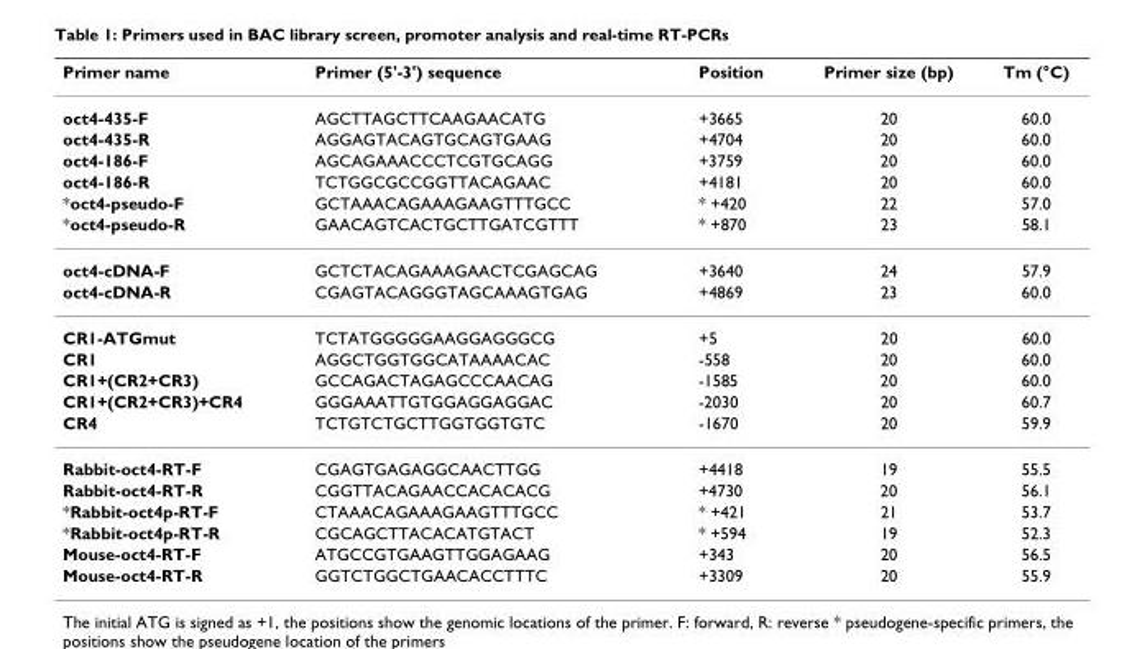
<table><thead><tr><td>Primer name</td><td>Primer (5&#x27;-3&#x27;) sequence</td><td>Position</td><td>Primer size (bp)</td><td>Tm (°C)</td></tr></thead><tbody><tr><td>oct4-435-F</td><td>AGCTTAGCTTCAAGAACATG</td><td>+3665</td><td>20</td><td>60.0</td></tr><tr><td>oct4-435-R</td><td>AGGAGTACAGTGCAGTGAAG</td><td>+4704</td><td>20</td><td>60.0</td></tr><tr><td>oct4-186-F</td><td>AGCAGAAACCCTCGTGCAGG</td><td>+3759</td><td>20</td><td>60.0</td></tr><tr><td>oct4-186-R</td><td>TCTGGCGCCGGTTACAGAAC</td><td>+4181</td><td>20</td><td>60.0</td></tr><tr><td>*oct4-pseudo-F</td><td>GCTAAACAGAAAGAAGTTTGCC</td><td>* +420</td><td>22</td><td>57.0</td></tr><tr><td>*oct4-pseudo-R</td><td>GAACAGTCACTGCTTGATCGTTT</td><td>* +870</td><td>23</td><td>58.1</td></tr><tr><td>oct4-cDNA-F</td><td>GCTCTACAGAAAGAACTCGAGCAG</td><td>+3640</td><td>24</td><td>57.9</td></tr><tr><td>oct4-cDNA-R</td><td>CGAGTACAGGGTAGCAAAGTGAG</td><td>+4869</td><td>23</td><td>60.0</td></tr><tr><td>CR1-ATGmut</td><td>TCTATGGGGGAAGGAGGGCG</td><td>+5</td><td>20</td><td>60.0</td></tr><tr><td>CR1</td><td>AGGCTGGTGGCATAAAACAC</td><td>-558</td><td>20</td><td>60.0</td></tr><tr><td>CR1+(CR2+CR3)</td><td>GCCAGACTAGAGCCCAACAG</td><td>-1585</td><td>20</td><td>60.0</td></tr><tr><td>CR1+(CR2+CR3)+CR4</td><td>GGGAAATTGTGGAGGAGGAC</td><td>-2030</td><td>20</td><td>60.7</td></tr><tr><td>CR4</td><td>TCTGTCTGCTTGGTGGTGTC</td><td>-1670</td><td>20</td><td>59.9</td></tr><tr><td>Rabbit-oct4-RT-F</td><td>CGAGTGAGAGGCAACTTGG</td><td>+4418</td><td>19</td><td>55.5</td></tr><tr><td>Rabbit-oct4-RT-R</td><td>CGGTTACAGAACCACACACG</td><td>+4730</td><td>20</td><td>56.1</td></tr><tr><td>*Rabbit-oct4p-RT-F</td><td>CTAAACAGAAAGAAGTTTGCC</td><td>* +421</td><td>21</td><td>53.7</td></tr><tr><td>*Rabbit-oct4p-RT-R</td><td>CGCAGCTTACACATGTACT</td><td>* +594</td><td>19</td><td>52.3</td></tr><tr><td>Mouse-oct4-RT-F</td><td>ATGCCGTGAAGTTGGAGAAG</td><td>+343</td><td>20</td><td>56.5</td></tr><tr><td>Mouse-oct4-RT-R</td><td>GGTCTGGCTGAACACCTTTC</td><td>+3309</td><td>20</td><td>55.9</td></tr></tbody></table>